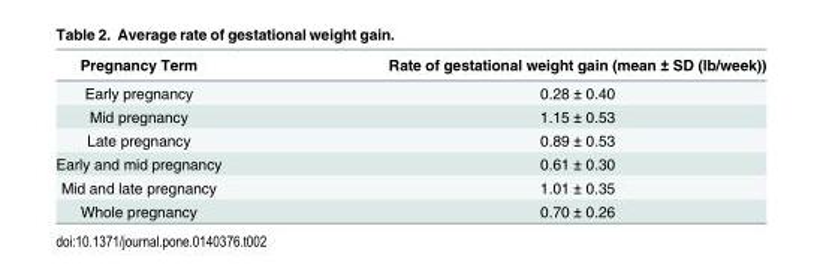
<table><thead><tr><td>Pregnancy Term</td><td>Rate of gestational weight gain (mean ± SD (lb/week))</td></tr></thead><tbody><tr><td>Early pregnancy</td><td>0.28 ± 0.40</td></tr><tr><td>Mid pregnancy</td><td>1.15 ± 0.53</td></tr><tr><td>Late pregnancy</td><td>0.89 ± 0.53</td></tr><tr><td>Early and mid pregnancy</td><td>0.61 ± 0.30</td></tr><tr><td>Mid and late pregnancy</td><td>1.01 ± 0.35</td></tr><tr><td>Whole pregnancy</td><td>0.70 ± 0.26</td></tr></tbody></table>